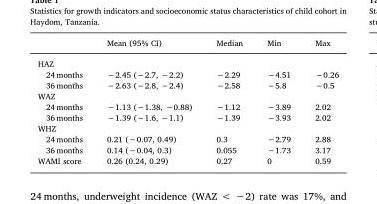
<table><thead><tr><td></td><td>Mean (95% CI)</td><td>Median</td><td>Min</td><td>Max</td></tr></thead><tbody><tr><td colspan="5">HAZ</td></tr><tr><td>24 months</td><td>−2.45 (−2.7, −2.2)</td><td>−2.29</td><td>−4.51</td><td>−0.26</td></tr><tr><td>36 months</td><td>−2.63 (−2.8, −2.4)</td><td>−2.58</td><td>−5.8</td><td>−0.5</td></tr><tr><td colspan="5">WAZ</td></tr><tr><td>24 months</td><td>−1.13 (−1.38, −0.88)</td><td>−1.12</td><td>−3.89</td><td>2.02</td></tr><tr><td>36 months</td><td>−1.39 (−1.6, −1.1)</td><td>−1.39</td><td>−3.93</td><td>2.02</td></tr><tr><td colspan="5">WHZ</td></tr><tr><td>24 months</td><td>0.21 (−0.07, 0.49)</td><td>0.3</td><td>−2.79</td><td>2.88</td></tr><tr><td>36 months</td><td>0.14 (−0.04, 0.3)</td><td>0.055</td><td>−1.73</td><td>3.17</td></tr><tr><td>WAMI score</td><td>0.26 (0.24, 0.29)</td><td>0.27</td><td>0</td><td>0.59</td></tr></tbody></table>